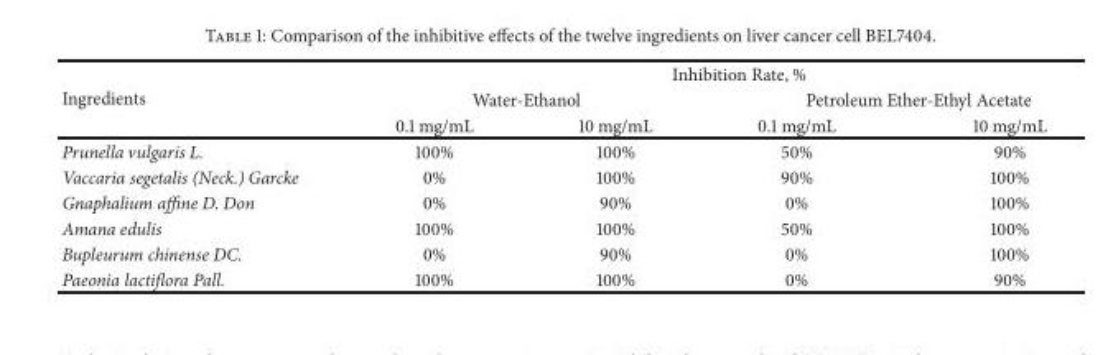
<table><thead><tr><td rowspan="3">Ingredients</td><td colspan="4">Inhibition Rate, %</td></tr><tr><td colspan="2">Water-Ethanol</td><td colspan="2">Petroleum Ether-Ethyl Acetate</td></tr><tr><td>0.1 mg/mL</td><td>10 mg/mL</td><td>0.1 mg/mL</td><td>10 mg/mL</td></tr></thead><tbody><tr><td>Prunella vulgaris L.</td><td>100%</td><td>100%</td><td>50%</td><td>90%</td></tr><tr><td>Vaccaria segetalis (Neck.) Garcke</td><td>0%</td><td>100%</td><td>90%</td><td>100%</td></tr><tr><td>Gnaphalium affine D. Don</td><td>0%</td><td>90%</td><td>0%</td><td>100%</td></tr><tr><td>Amana edulis</td><td>100%</td><td>100%</td><td>50%</td><td>100%</td></tr><tr><td>Bupleurum chinense DC.</td><td>0%</td><td>90%</td><td>0%</td><td>100%</td></tr><tr><td>Paeonia lactiflora Pall.</td><td>100%</td><td>100%</td><td>0%</td><td>90%</td></tr></tbody></table>